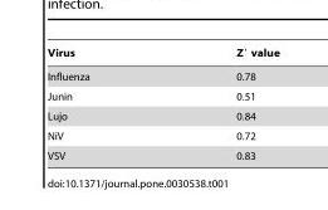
<table><thead><tr><td>Virus</td><td>Z′ value</td></tr></thead><tbody><tr><td>Influenza</td><td>0.78</td></tr><tr><td>Junin</td><td>0.51</td></tr><tr><td>Lujo</td><td>0.84</td></tr><tr><td>NiV</td><td>0.72</td></tr><tr><td>VSV</td><td>0.83</td></tr></tbody></table>